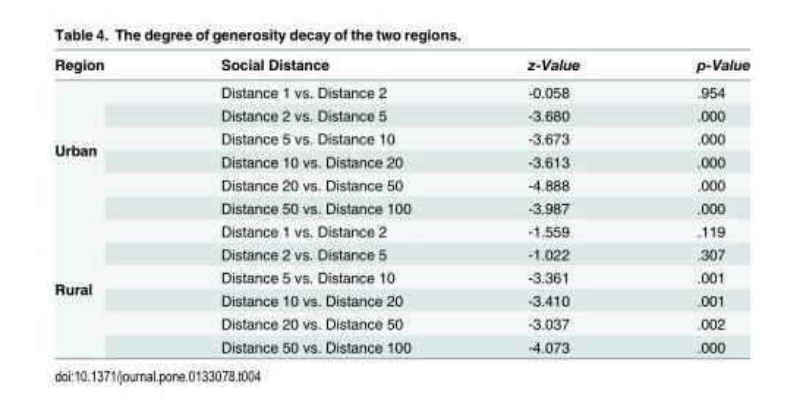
<table><thead><tr><td>Region</td><td>Social Distance</td><td>z-Value</td><td>p-Value</td></tr></thead><tbody><tr><td rowspan="6">Urban</td><td>Distance 1 vs. Distance 2</td><td>-0.058</td><td>.954</td></tr><tr><td>Distance 2 vs. Distance 5</td><td>-3.680</td><td>.000</td></tr><tr><td>Distance 5 vs. Distance 10</td><td>-3.673</td><td>.000</td></tr><tr><td>Distance 10 vs. Distance 20</td><td>-3.613</td><td>.000</td></tr><tr><td>Distance 20 vs. Distance 50</td><td>-4.888</td><td>.000</td></tr><tr><td>Distance 50 vs. Distance 100</td><td>-3.987</td><td>.000</td></tr><tr><td rowspan="6">Rural</td><td>Distance 1 vs. Distance 2</td><td>-1.559</td><td>.119</td></tr><tr><td>Distance 2 vs. Distance 5</td><td>-1.022</td><td>.307</td></tr><tr><td>Distance 5 vs. Distance 10</td><td>-3.361</td><td>.001</td></tr><tr><td>Distance 10 vs. Distance 20</td><td>-3.410</td><td>.001</td></tr><tr><td>Distance 20 vs. Distance 50</td><td>-3.037</td><td>.002</td></tr><tr><td>Distance 50 vs. Distance 100</td><td>-4.073</td><td>.000</td></tr></tbody></table>